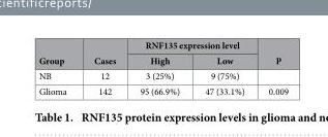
<table><thead><tr><td rowspan="2">Group</td><td rowspan="2">Cases</td><td colspan="2">RNF135 expression level</td><td rowspan="2">P</td></tr><tr><td>High</td><td>Low</td></tr></thead><tbody><tr><td>NB</td><td>12</td><td>3 (25%)</td><td>9 (75%)</td><td></td></tr><tr><td>Glioma</td><td>142</td><td>95 (66.9%)</td><td>47 (33.1%)</td><td>0.009</td></tr></tbody></table>